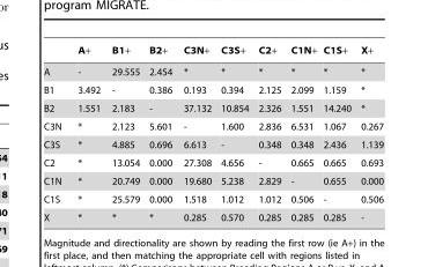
<table><thead><tr><td></td><td>A+</td><td>B1+</td><td>B2+</td><td>C3N+</td><td>C3S+</td><td>C2+</td><td>C1N+</td><td>C1S+</td><td>X+</td></tr></thead><tbody><tr><td>A</td><td>-</td><td>29.555</td><td>2.454</td><td>*</td><td>*</td><td>*</td><td>*</td><td>*</td><td>*</td></tr><tr><td>B1</td><td>3.492</td><td>-</td><td>0.386</td><td>0.193</td><td>0.394</td><td>2.125</td><td>2.099</td><td>1.159</td><td>*</td></tr><tr><td>B2</td><td>1.551</td><td>2.183</td><td>-</td><td>37.132</td><td>10.854</td><td>2.326</td><td>1.551</td><td>14.240</td><td>*</td></tr><tr><td>C3N</td><td>*</td><td>2.123</td><td>5.601</td><td>-</td><td>1.600</td><td>2.836</td><td>6.531</td><td>1.067</td><td>0.267</td></tr><tr><td>C3S</td><td>*</td><td>4.885</td><td>0.696</td><td>6.613</td><td>-</td><td>0.348</td><td>0.348</td><td>2.436</td><td>1.139</td></tr><tr><td>C2</td><td>*</td><td>13.054</td><td>0.000</td><td>27.308</td><td>4.656</td><td>-</td><td>0.665</td><td>0.665</td><td>0.693</td></tr><tr><td>C1N</td><td>*</td><td>20.749</td><td>0.000</td><td>19.680</td><td>5.238</td><td>2.829</td><td>-</td><td>0.655</td><td>0.000</td></tr><tr><td>C1S</td><td>*</td><td>25.579</td><td>0.000</td><td>1.518</td><td>1.012</td><td>1.012</td><td>0.506</td><td>-</td><td>0.506</td></tr><tr><td>X</td><td>*</td><td>*</td><td>*</td><td>0.285</td><td>0.570</td><td>0.285</td><td>0.285</td><td>0.285</td><td>-</td></tr></tbody></table>